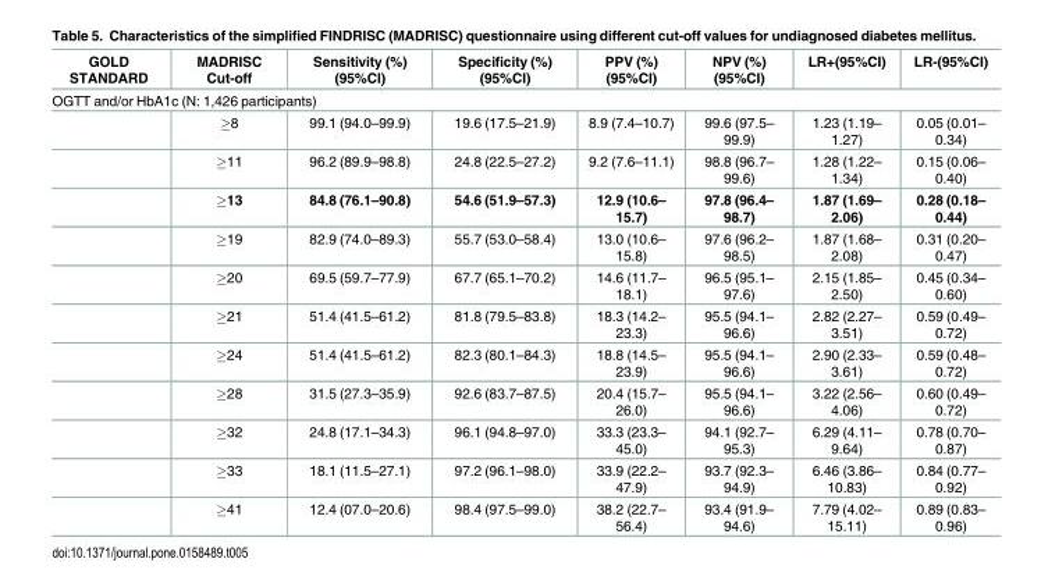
<table><thead><tr><td>GOLD STANDARD</td><td>MADRISC Cut-off</td><td>Sensitivity (%) (95%CI)</td><td>Specificity (%) (95%CI)</td><td>PPV (%) (95%CI)</td><td>NPV (%) (95%CI)</td><td>LR+(95%CI)</td><td>LR-(95%CI)</td></tr></thead><tbody><tr><td colspan="8">OGTT and/or HbA1c (N: 1,426 participants)</td></tr><tr><td></td><td>≥8</td><td>99.1 (94.0–99.9)</td><td>19.6 (17.5–21.9)</td><td>8.9 (7.4–10.7)</td><td>99.6 (97.5– 99.9)</td><td>1.23 (1.19– 1.27)</td><td>0.05 (0.01– 0.34)</td></tr><tr><td></td><td>≥11</td><td>96.2 (89.9–98.8)</td><td>24.8 (22.5–27.2)</td><td>9.2 (7.6–11.1)</td><td>98.8 (96.7– 99.6)</td><td>1.28 (1.22– 1.34)</td><td>0.15 (0.06– 0.40)</td></tr><tr><td></td><td>≥13</td><td>84.8 (76.1–90.8)</td><td>54.6 (51.9–57.3)</td><td>12.9 (10.6– 15.7)</td><td>97.8 (96.4– 98.7)</td><td>1.87 (1.69– 2.06)</td><td>0.28 (0.18– 0.44)</td></tr><tr><td></td><td>≥19</td><td>82.9 (74.0–89.3)</td><td>55.7 (53.0–58.4)</td><td>13.0 (10.6– 15.8)</td><td>97.6 (96.2– 98.5)</td><td>1.87 (1.68– 2.08)</td><td>0.31 (0.20– 0.47)</td></tr><tr><td></td><td>≥20</td><td>69.5 (59.7–77.9)</td><td>67.7 (65.1–70.2)</td><td>14.6 (11.7– 18.1)</td><td>96.5 (95.1– 97.6)</td><td>2.15 (1.85– 2.50)</td><td>0.45 (0.34– 0.60)</td></tr><tr><td></td><td>≥21</td><td>51.4 (41.5–61.2)</td><td>81.8 (79.5–83.8)</td><td>18.3 (14.2– 23.3)</td><td>95.5 (94.1– 96.6)</td><td>2.82 (2.27– 3.51)</td><td>0.59 (0.49– 0.72)</td></tr><tr><td></td><td>≥24</td><td>51.4 (41.5–61.2)</td><td>82.3 (80.1–84.3)</td><td>18.8 (14.5– 23.9)</td><td>95.5 (94.1– 96.6)</td><td>2.90 (2.33– 3.61)</td><td>0.59 (0.48– 0.72)</td></tr><tr><td></td><td>≥28</td><td>31.5 (27.3–35.9)</td><td>92.6 (83.7–87.5)</td><td>20.4 (15.7– 26.0)</td><td>95.5 (94.1– 96.6)</td><td>3.22 (2.56– 4.06)</td><td>0.60 (0.49– 0.72)</td></tr><tr><td></td><td>≥32</td><td>24.8 (17.1–34.3)</td><td>96.1 (94.8–97.0)</td><td>33.3 (23.3– 45.0)</td><td>94.1 (92.7– 95.3)</td><td>6.29 (4.11– 9.64)</td><td>0.78 (0.70– 0.87)</td></tr><tr><td></td><td>≥33</td><td>18.1 (11.5–27.1)</td><td>97.2 (96.1–98.0)</td><td>33.9 (22.2– 47.9)</td><td>93.7 (92.3– 94.9)</td><td>6.46 (3.86– 10.83)</td><td>0.84 (0.77– 0.92)</td></tr><tr><td></td><td>≥41</td><td>12.4 (07.0–20.6)</td><td>98.4 (97.5–99.0)</td><td>38.2 (22.7– 56.4)</td><td>93.4 (91.9– 94.6)</td><td>7.79 (4.02– 15.11)</td><td>0.89 (0.83– 0.96)</td></tr></tbody></table>